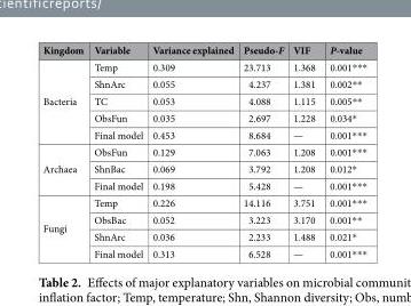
<table><thead><tr><td>Kingdom</td><td>Variable</td><td>Variance explained</td><td>Pseudo-F</td><td>VIF</td><td>P-value</td></tr></thead><tbody><tr><td rowspan="5">Bacteria</td><td>Temp</td><td>0.309</td><td>23.713</td><td>1.368</td><td>0.001***</td></tr><tr><td>ShnArc</td><td>0.055</td><td>4.237</td><td>1.381</td><td>0.002**</td></tr><tr><td>TC</td><td>0.053</td><td>4.088</td><td>1.115</td><td>0.005**</td></tr><tr><td>ObsFun</td><td>0.035</td><td>2.697</td><td>1.228</td><td>0.034*</td></tr><tr><td>Final model</td><td>0.453</td><td>8.684</td><td>—</td><td>0.001***</td></tr><tr><td rowspan="3">Archaea</td><td>ObsFun</td><td>0.129</td><td>7.063</td><td>1.208</td><td>0.001***</td></tr><tr><td>ShnBac</td><td>0.069</td><td>3.792</td><td>1.208</td><td>0.012*</td></tr><tr><td>Final model</td><td>0.198</td><td>5.428</td><td>—</td><td>0.001***</td></tr><tr><td rowspan="4">Fungi</td><td>Temp</td><td>0.226</td><td>14.116</td><td>3.751</td><td>0.001***</td></tr><tr><td>ObsBac</td><td>0.052</td><td>3.223</td><td>3.170</td><td>0.001**</td></tr><tr><td>ShnArc</td><td>0.036</td><td>2.233</td><td>1.488</td><td>0.021*</td></tr><tr><td>Final model</td><td>0.313</td><td>6.528</td><td>—</td><td>0.001***</td></tr></tbody></table>